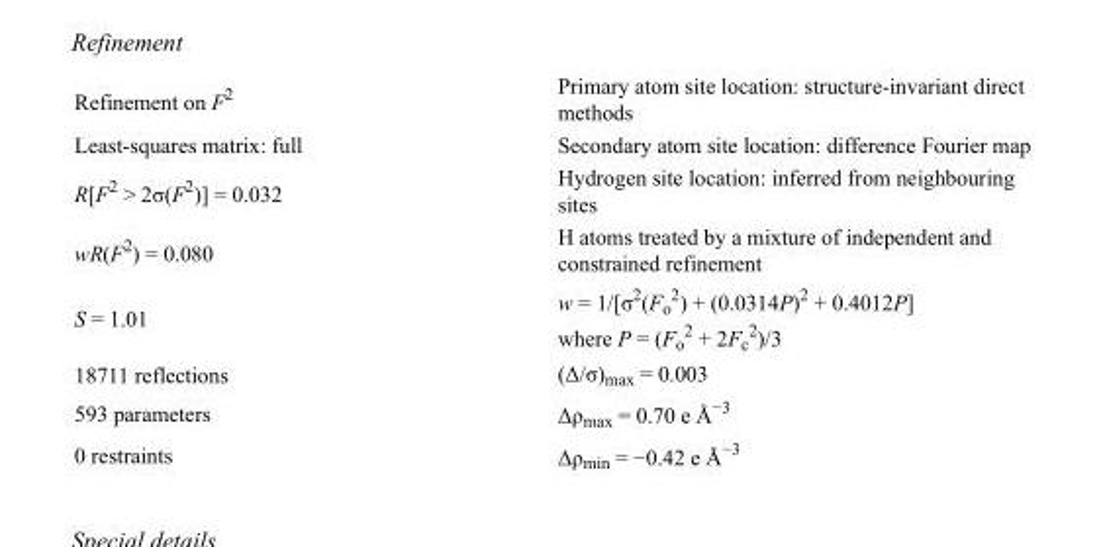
<table><tbody><tr><td>Refinement on F<sup>2</sup></td><td>Primary atom site location: structure-invariant direct methods</td></tr><tr><td>Least-squares matrix: full</td><td>Secondary atom site location: difference Fourier map</td></tr><tr><td>R[F<sup>2</sup> &gt; 2σ(F<sup>2</sup>)] = 0.032</td><td>Hydrogen site location: inferred from neighbouring sites</td></tr><tr><td>wR(F<sup>2</sup>) = 0.080</td><td>H atoms treated by a mixture of independent and constrained refinement</td></tr><tr><td>S = 1.01</td><td>w = 1/[σ<sup>2</sup>(F<sub>o</sub> <sup>2</sup>) + (0.0314P)<sup>2</sup> + 0.4012P] where P = (F<sub>o</sub> <sup>2</sup> + 2F<sub>c</sub> <sup>2</sup>)/3</td></tr><tr><td>18711 reflections</td><td>(Δ/σ)<sub>max</sub> = 0.003</td></tr><tr><td>593 parameters</td><td>Δρ<sub>max</sub> = 0.70 e Å<sup>−3</sup></td></tr><tr><td>0 restraints</td><td>Δρ<sub>min</sub> = −0.42 e Å<sup>−3</sup></td></tr></tbody></table>